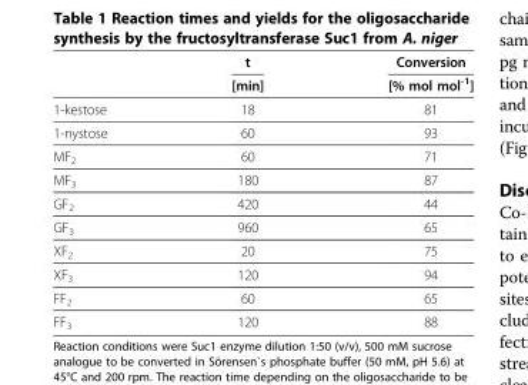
<table><thead><tr><td rowspan="2"></td><td rowspan="2">t [min]</td><td rowspan="2">Conversion [% mol mol<sup>-1</sup>]</td></tr><tr></tr></thead><tbody><tr><td>1-kestose</td><td>18</td><td>81</td></tr><tr><td>1-nystose</td><td>60</td><td>93</td></tr><tr><td>MF<sub>2</sub></td><td>60</td><td>71</td></tr><tr><td>MF<sub>3</sub></td><td>180</td><td>87</td></tr><tr><td>GF<sub>2</sub></td><td>420</td><td>44</td></tr><tr><td>GF<sub>3</sub></td><td>960</td><td>65</td></tr><tr><td>XF<sub>2</sub></td><td>20</td><td>75</td></tr><tr><td>XF<sub>3</sub></td><td>120</td><td>94</td></tr><tr><td>FF<sub>2</sub></td><td>60</td><td>65</td></tr><tr><td>FF<sub>3</sub></td><td>120</td><td>88</td></tr></tbody></table>